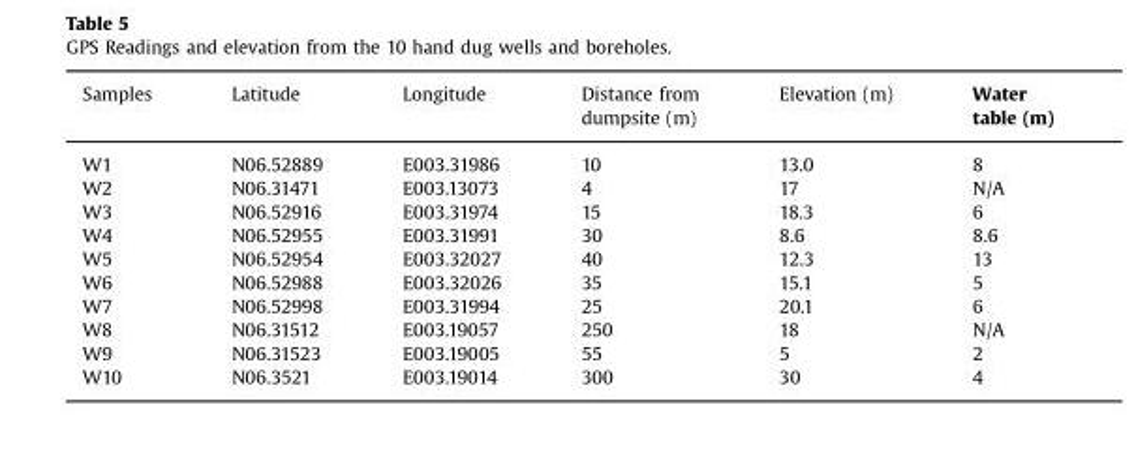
<table><thead><tr><td>Samples</td><td>Latitude</td><td>Longitude</td><td>Distance from dumpsite (m)</td><td>Elevation (m)</td><td>Water table (m)</td></tr></thead><tbody><tr><td>W1</td><td>N06.52889</td><td>E003.31986</td><td>10</td><td>13.0</td><td>8</td></tr><tr><td>W2</td><td>N06.31471</td><td>E003.13073</td><td>4</td><td>17</td><td>N/A</td></tr><tr><td>W3</td><td>N06.52916</td><td>E003.31974</td><td>15</td><td>18.3</td><td>6</td></tr><tr><td>W4</td><td>N06.52955</td><td>E003.31991</td><td>30</td><td>8.6</td><td>8.6</td></tr><tr><td>W5</td><td>N06.52954</td><td>E003.32027</td><td>40</td><td>12.3</td><td>13</td></tr><tr><td>W6</td><td>N06.52988</td><td>E003.32026</td><td>35</td><td>15.1</td><td>5</td></tr><tr><td>W7</td><td>N06.52998</td><td>E003.31994</td><td>25</td><td>20.1</td><td>6</td></tr><tr><td>W8</td><td>N06.31512</td><td>E003.19057</td><td>250</td><td>18</td><td>N/A</td></tr><tr><td>W9</td><td>N06.31523</td><td>E003.19005</td><td>55</td><td>5</td><td>2</td></tr><tr><td>W10</td><td>N06.3521</td><td>E003.19014</td><td>300</td><td>30</td><td>4</td></tr></tbody></table>